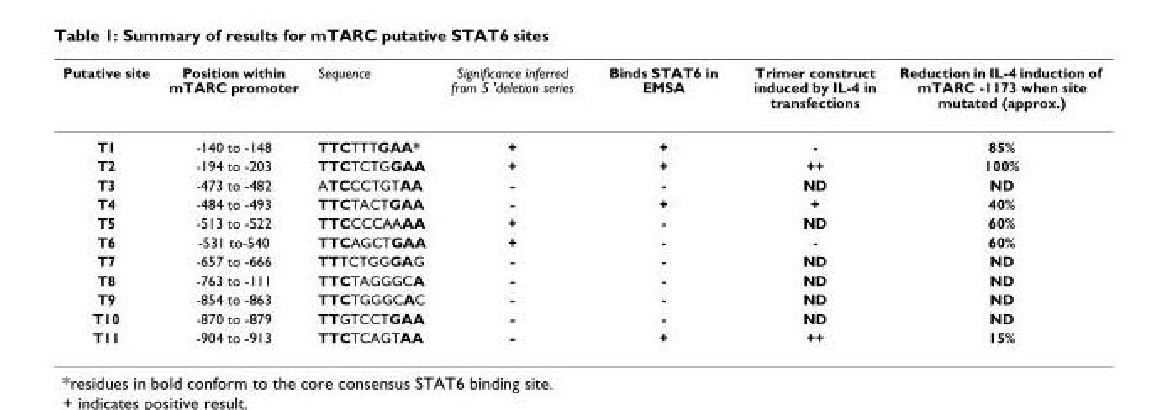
<table><thead><tr><td>Putative site</td><td>Position within mTARC promoter</td><td>Sequence</td><td>Significance inferred from 5 &#x27;deletion series</td><td>Binds STAT6 in EMSA</td><td>Trimer construct induced by IL-4 in transfections</td><td>Reduction in IL-4 induction of mTARC -1173 when site mutated (approx.)</td></tr></thead><tbody><tr><td>T1</td><td>-140 to -148</td><td>TTCTTTGAA*</td><td>+</td><td>+</td><td>-</td><td>85%</td></tr><tr><td>T2</td><td>-194 to -203</td><td>TTCTCTGGAA</td><td>+</td><td>+</td><td>++</td><td>100%</td></tr><tr><td>T3</td><td>-473 to -482</td><td>ATCCCTGTAA</td><td>-</td><td>-</td><td>ND</td><td>ND</td></tr><tr><td>T4</td><td>-484 to -493</td><td>TTCTACTGAA</td><td>-</td><td>+</td><td>+</td><td>40%</td></tr><tr><td>T5</td><td>-513 to -522</td><td>TTCCCCAAAA</td><td>+</td><td>-</td><td>ND</td><td>60%</td></tr><tr><td>T6</td><td>-531 to-540</td><td>TTCAGCTGAA</td><td>+</td><td>-</td><td>-</td><td>60%</td></tr><tr><td>T7</td><td>-657 to -666</td><td>TTTCTGGGAG</td><td>-</td><td>-</td><td>ND</td><td>ND</td></tr><tr><td>T8</td><td>-763 to -111</td><td>TTCTAGGGCA</td><td>-</td><td>-</td><td>ND</td><td>ND</td></tr><tr><td>T9</td><td>-854 to -863</td><td>TTCTGGGCAC</td><td>-</td><td>-</td><td>ND</td><td>ND</td></tr><tr><td>T10</td><td>-870 to -879</td><td>TTGTCCTGAA</td><td>-</td><td>-</td><td>ND</td><td>ND</td></tr><tr><td>T11</td><td>-904 to -913</td><td>TTCTCAGTAA</td><td>-</td><td>+</td><td>++</td><td>15%</td></tr></tbody></table>